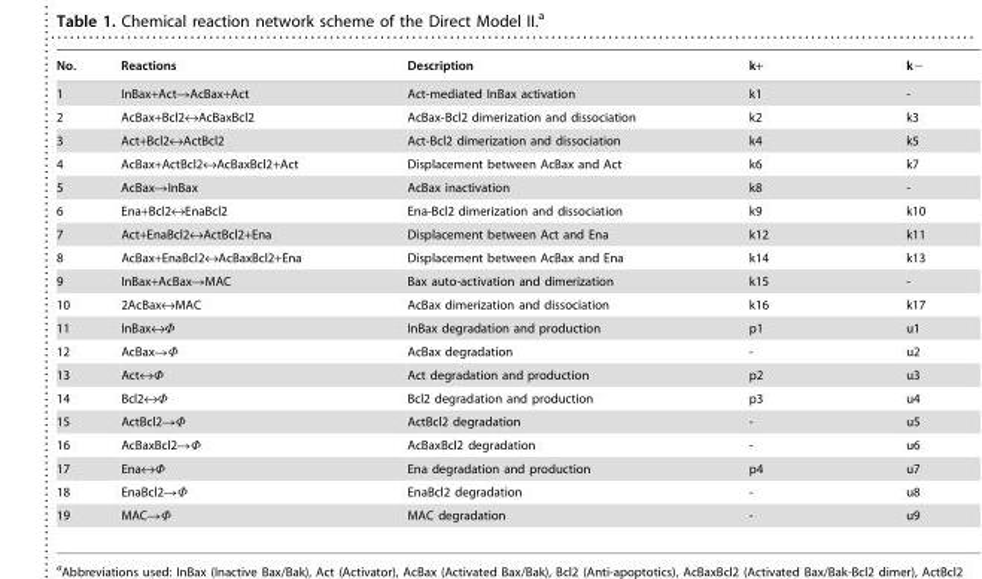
<table><thead><tr><td>No.</td><td>Reactions</td><td>Description</td><td>k+</td><td>k−</td></tr></thead><tbody><tr><td>1</td><td>InBax+Act→AcBax+Act</td><td>Act-mediated InBax activation</td><td>k1</td><td>-</td></tr><tr><td>2</td><td>AcBax+Bcl2↔AcBaxBcl2</td><td>AcBax-Bcl2 dimerization and dissociation</td><td>k2</td><td>k3</td></tr><tr><td>3</td><td>Act+Bcl2↔ActBcl2</td><td>Act-Bcl2 dimerization and dissociation</td><td>k4</td><td>k5</td></tr><tr><td>4</td><td>AcBax+ActBcl2↔AcBaxBcl2+Act</td><td>Displacement between AcBax and Act</td><td>k6</td><td>k7</td></tr><tr><td>5</td><td>AcBax→InBax</td><td>AcBax inactivation</td><td>k8</td><td>-</td></tr><tr><td>6</td><td>Ena+Bcl2↔EnaBcl2</td><td>Ena-Bcl2 dimerization and dissociation</td><td>k9</td><td>k10</td></tr><tr><td>7</td><td>Act+EnaBcl2↔ActBcl2+Ena</td><td>Displacement between Act and Ena</td><td>k12</td><td>k11</td></tr><tr><td>8</td><td>AcBax+EnaBcl2↔AcBaxBcl2+Ena</td><td>Displacement between AcBax and Ena</td><td>k14</td><td>k13</td></tr><tr><td>9</td><td>InBax+AcBax→MAC</td><td>Bax auto-activation and dimerization</td><td>k15</td><td>-</td></tr><tr><td>10</td><td>2AcBax↔MAC</td><td>AcBax dimerization and dissociation</td><td>k16</td><td>k17</td></tr><tr><td>11</td><td>InBax↔Φ</td><td>InBax degradation and production</td><td>p1</td><td>u1</td></tr><tr><td>12</td><td>AcBax→Φ</td><td>AcBax degradation</td><td>-</td><td>u2</td></tr><tr><td>13</td><td>Act↔Φ</td><td>Act degradation and production</td><td>p2</td><td>u3</td></tr><tr><td>14</td><td>Bcl2↔Φ</td><td>Bcl2 degradation and production</td><td>p3</td><td>u4</td></tr><tr><td>15</td><td>ActBcl2→Φ</td><td>ActBcl2 degradation</td><td>-</td><td>u5</td></tr><tr><td>16</td><td>AcBaxBcl2→Φ</td><td>AcBaxBcl2 degradation</td><td>-</td><td>u6</td></tr><tr><td>17</td><td>Ena↔Φ</td><td>Ena degradation and production</td><td>p4</td><td>u7</td></tr><tr><td>18</td><td>EnaBcl2→Φ</td><td>EnaBcl2 degradation</td><td>-</td><td>u8</td></tr><tr><td>19</td><td>MAC→Φ</td><td>MAC degradation</td><td>-</td><td>u9</td></tr></tbody></table>